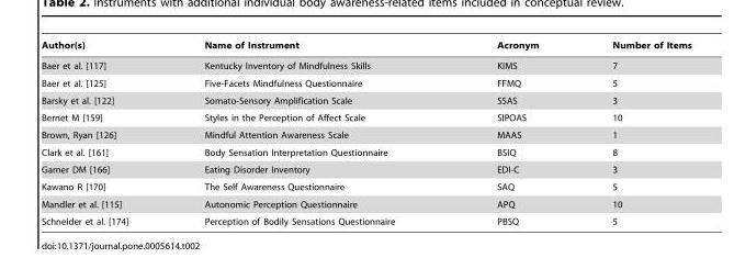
<table><thead><tr><td>Author(s)</td><td>Name of Instrument</td><td>Acronym</td><td>Number of Items</td></tr></thead><tbody><tr><td>Baer et al. [117]</td><td>Kentucky Inventory of Mindfulness Skills</td><td>KIMS</td><td>7</td></tr><tr><td>Baer et al. [125]</td><td>Five-Facets Mindfulness Questionnaire</td><td>FFMQ</td><td>5</td></tr><tr><td>Barsky et al. [122]</td><td>Somato-Sensory Amplification Scale</td><td>SSAS</td><td>3</td></tr><tr><td>Bernet M [159]</td><td>Styles in the Perception of Affect Scale</td><td>SIPOAS</td><td>10</td></tr><tr><td>Brown, Ryan [126]</td><td>Mindful Attention Awareness Scale</td><td>MAAS</td><td>1</td></tr><tr><td>Clark et al. [161]</td><td>Body Sensation Interpretation Questionnaire</td><td>BSIQ</td><td>8</td></tr><tr><td>Garner DM [166]</td><td>Eating Disorder Inventory</td><td>EDI-C</td><td>3</td></tr><tr><td>Kawano R [170]</td><td>The Self Awareness Questionnaire</td><td>SAQ</td><td>5</td></tr><tr><td>Mandler et al. [115]</td><td>Autonomic Perception Questionnaire</td><td>APQ</td><td>10</td></tr><tr><td>Schneider et al. [174]</td><td>Perception of Bodily Sensations Questionnaire</td><td>PBSQ</td><td>5</td></tr></tbody></table>